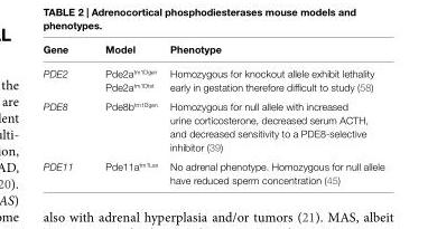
<table><thead><tr><td>Gene</td><td>Model</td><td>Phenotype</td></tr></thead><tbody><tr><td rowspan="2">PDE2</td><td>Pde2a<sup>tm1Dgen</sup></td><td rowspan="2">Homozygous for knockout allele exhibit lethality early in gestation therefore difficult to study (58)</td></tr><tr><td>Pde2a<sup>tm1Dtst</sup></td></tr><tr><td>PDE8</td><td>Pde8b<sup>tm1Dgen</sup></td><td>Homozygous for null allele with increased urine corticosterone, decreased serum ACTH, and decreased sensitivity to a PDE8-selective inhibitor (39)</td></tr><tr><td>PDE11</td><td>Pde11a<sup>tm1Lex</sup></td><td>No adrenal phenotype. Homozygous for null allele have reduced sperm concentration (45)</td></tr></tbody></table>